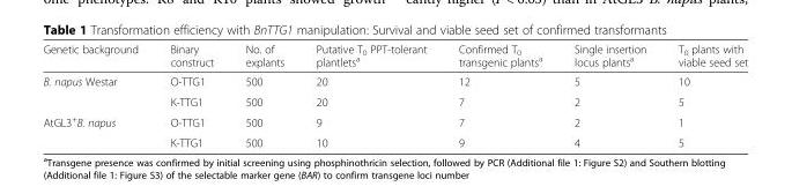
<table><thead><tr><td>Genetic background</td><td>Binary construct</td><td>No. of explants</td><td>Putative T<sub>0</sub> PPT-tolerant plantlets<sup>a</sup></td><td>Confirmed T<sub>0</sub> transgenic plants<sup>a</sup></td><td>Single insertion locus plants<sup>a</sup></td><td>T<sub>0</sub> plants with viable seed set</td></tr></thead><tbody><tr><td rowspan="2">B. napus Westar</td><td>O-TTG1</td><td>500</td><td>20</td><td>12</td><td>5</td><td>10</td></tr><tr><td>K-TTG1</td><td>500</td><td>20</td><td>7</td><td>2</td><td>5</td></tr><tr><td rowspan="2">AtGL3<sup>+</sup>B. napus</td><td>O-TTG1</td><td>500</td><td>9</td><td>7</td><td>2</td><td>1</td></tr><tr><td>K-TTG1</td><td>500</td><td>10</td><td>9</td><td>4</td><td>5</td></tr></tbody></table>